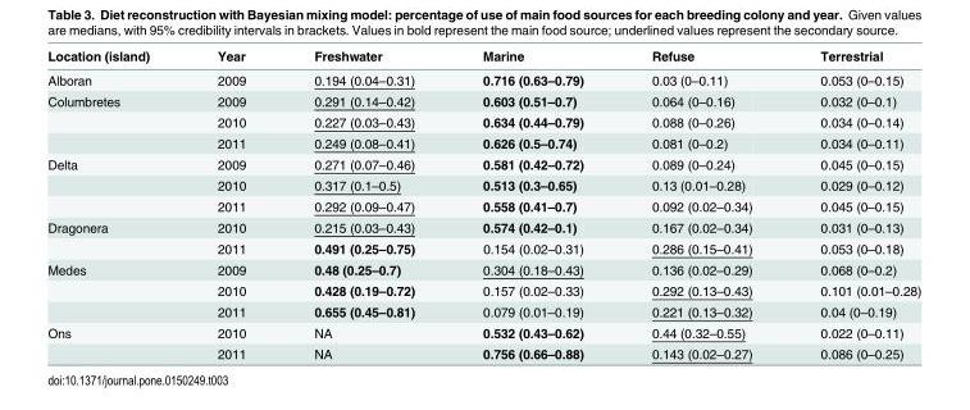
<table><thead><tr><td>Location (island)</td><td>Year</td><td>Freshwater</td><td>Marine</td><td>Refuse</td><td>Terrestrial</td></tr></thead><tbody><tr><td>Alboran</td><td>2009</td><td>0.194 (0.04–0.31)</td><td>0.716 (0.63–0.79)</td><td>0.03 (0–0.11)</td><td>0.053 (0–0.15)</td></tr><tr><td rowspan="3">Columbretes</td><td>2009</td><td>0.291 (0.14–0.42)</td><td>0.603 (0.51–0.7)</td><td>0.064 (0–0.16)</td><td>0.032 (0–0.1)</td></tr><tr><td>2010</td><td>0.227 (0.03–0.43)</td><td>0.634 (0.44–0.79)</td><td>0.088 (0–0.26)</td><td>0.034 (0–0.14)</td></tr><tr><td>2011</td><td>0.249 (0.08–0.41)</td><td>0.626 (0.5–0.74)</td><td>0.081 (0–0.2)</td><td>0.034 (0–0.11)</td></tr><tr><td rowspan="3">Delta</td><td>2009</td><td>0.271 (0.07–0.46)</td><td>0.581 (0.42–0.72)</td><td>0.089 (0–0.24)</td><td>0.045 (0–0.15)</td></tr><tr><td>2010</td><td>0.317 (0.1–0.5)</td><td>0.513 (0.3–0.65)</td><td>0.13 (0.01–0.28)</td><td>0.029 (0–0.12)</td></tr><tr><td>2011</td><td>0.292 (0.09–0.47)</td><td>0.558 (0.41–0.7)</td><td>0.092 (0.02–0.34)</td><td>0.045 (0–0.15)</td></tr><tr><td rowspan="2">Dragonera</td><td>2010</td><td>0.215 (0.03–0.43)</td><td>0.574 (0.42–0.1)</td><td>0.167 (0.02–0.34)</td><td>0.031 (0–0.13)</td></tr><tr><td>2011</td><td>0.491 (0.25–0.75)</td><td>0.154 (0.02–0.31)</td><td>0.286 (0.15–0.41)</td><td>0.053 (0–0.18)</td></tr><tr><td rowspan="3">Medes</td><td>2009</td><td>0.48 (0.25–0.7)</td><td>0.304 (0.18–0.43)</td><td>0.136 (0.02–0.29)</td><td>0.068 (0–0.2)</td></tr><tr><td>2010</td><td>0.428 (0.19–0.72)</td><td>0.157 (0.02–0.33)</td><td>0.292 (0.13–0.43)</td><td>0.101 (0.01–0.28)</td></tr><tr><td>2011</td><td>0.655 (0.45–0.81)</td><td>0.079 (0.01–0.19)</td><td>0.221 (0.13–0.32)</td><td>0.04 (0–0.19)</td></tr><tr><td rowspan="2">Ons</td><td>2010</td><td>NA</td><td>0.532 (0.43–0.62)</td><td>0.44 (0.32–0.55)</td><td>0.022 (0–0.11)</td></tr><tr><td>2011</td><td>NA</td><td>0.756 (0.66–0.88)</td><td>0.143 (0.02–0.27)</td><td>0.086 (0–0.25)</td></tr></tbody></table>